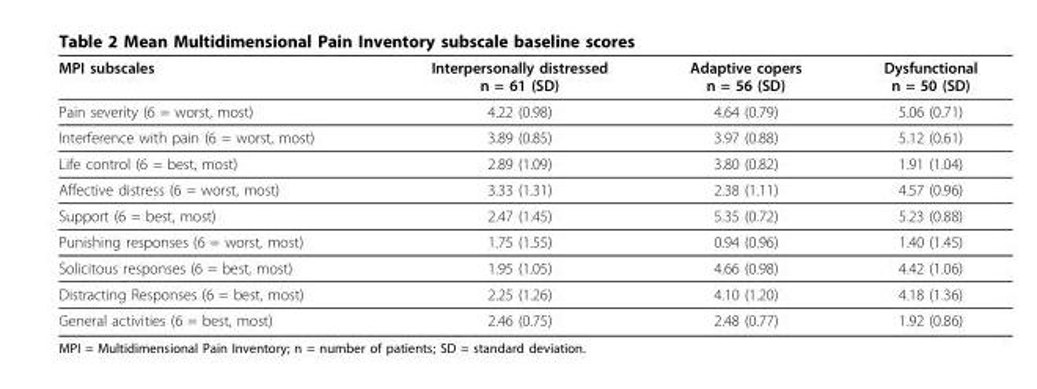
<table><thead><tr><td>MPI subscales</td><td>Interpersonally distressed n = 61 (SD)</td><td>Adaptive copers n = 56 (SD)</td><td>Dysfunctional n = 50 (SD)</td></tr></thead><tbody><tr><td>Pain severity (6 = worst, most)</td><td>4.22 (0.98)</td><td>4.64 (0.79)</td><td>5.06 (0.71)</td></tr><tr><td>Interference with pain (6 = worst, most)</td><td>3.89 (0.85)</td><td>3.97 (0.88)</td><td>5.12 (0.61)</td></tr><tr><td>Life control (6 = best, most)</td><td>2.89 (1.09)</td><td>3.80 (0.82)</td><td>1.91 (1.04)</td></tr><tr><td>Affective distress (6 = worst, most)</td><td>3.33 (1.31)</td><td>2.38 (1.11)</td><td>4.57 (0.96)</td></tr><tr><td>Support (6 = best, most)</td><td>2.47 (1.45)</td><td>5.35 (0.72)</td><td>5.23 (0.88)</td></tr><tr><td>Punishing responses (6 = worst, most)</td><td>1.75 (1.55)</td><td>0.94 (0.96)</td><td>1.40 (1.45)</td></tr><tr><td>Solicitous responses (6 = best, most)</td><td>1.95 (1.05)</td><td>4.66 (0.98)</td><td>4.42 (1.06)</td></tr><tr><td>Distracting Responses (6 = best, most)</td><td>2.25 (1.26)</td><td>4.10 (1.20)</td><td>4.18 (1.36)</td></tr><tr><td>General activities (6 = best, most)</td><td>2.46 (0.75)</td><td>2.48 (0.77)</td><td>1.92 (0.86)</td></tr></tbody></table>